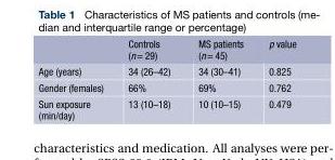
<table><thead><tr><td></td><td>Controls (n= 29)</td><td>MS patients (n= 45)</td><td>p value</td></tr></thead><tbody><tr><td>Age (years)</td><td>34 (26–42)</td><td>34 (30–41)</td><td>0.825</td></tr><tr><td>Gender (females)</td><td>66%</td><td>69%</td><td>0.762</td></tr><tr><td>Sun exposure (min/day)</td><td>13 (10–18)</td><td>10 (10–15)</td><td>0.479</td></tr></tbody></table>